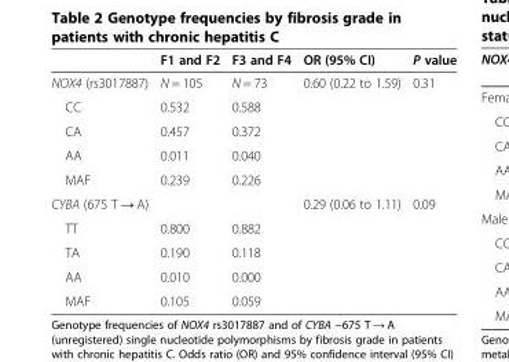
<table><thead><tr><td></td><td>F1 and F2</td><td>F3 and F4</td><td>OR (95% CI)</td><td>P value</td></tr></thead><tbody><tr><td>NOX4 (rs3017887)</td><td>N = 105</td><td>N = 73</td><td>0.60 (0.22 to 1.59)</td><td>0.31</td></tr><tr><td>CC</td><td>0.532</td><td>0.588</td><td></td><td></td></tr><tr><td>CA</td><td>0.457</td><td>0.372</td><td></td><td></td></tr><tr><td>AA</td><td>0.011</td><td>0.040</td><td></td><td></td></tr><tr><td>MAF</td><td>0.239</td><td>0.226</td><td></td><td></td></tr><tr><td>CYBA (675 T → A)</td><td></td><td></td><td>0.29 (0.06 to 1.11)</td><td>0.09</td></tr><tr><td>TT</td><td>0.800</td><td>0.882</td><td></td><td></td></tr><tr><td>TA</td><td>0.190</td><td>0.118</td><td></td><td></td></tr><tr><td>AA</td><td>0.010</td><td>0.000</td><td></td><td></td></tr><tr><td>MAF</td><td>0.105</td><td>0.059</td><td></td><td></td></tr></tbody></table>